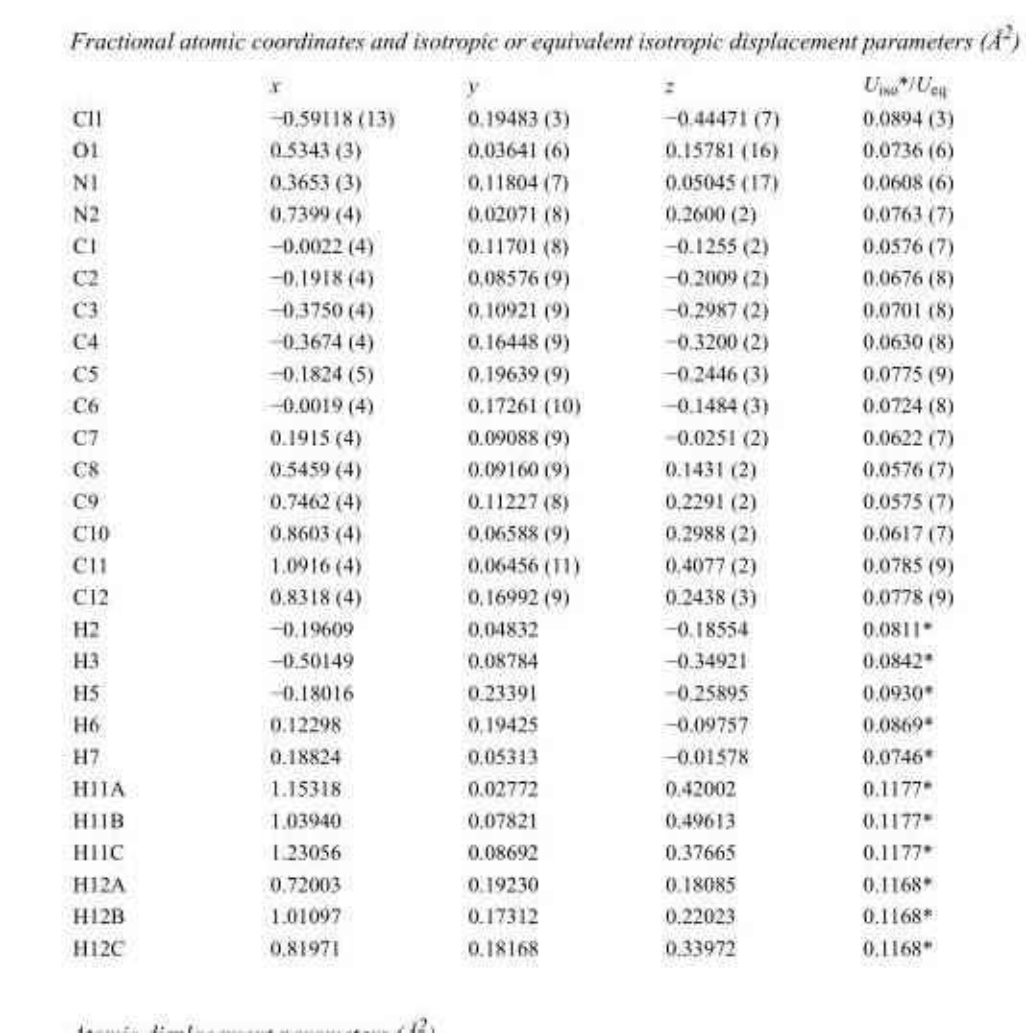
<table><thead><tr><td></td><td>x</td><td>y</td><td>z</td><td>U<sub>iso</sub>*/U<sub>eq</sub></td></tr></thead><tbody><tr><td>Cl1</td><td>−0.59118 (13)</td><td>0.19483 (3)</td><td>−0.44471 (7)</td><td>0.0894 (3)</td></tr><tr><td>O1</td><td>0.5343 (3)</td><td>0.03641 (6)</td><td>0.15781 (16)</td><td>0.0736 (6)</td></tr><tr><td>N1</td><td>0.3653 (3)</td><td>0.11804 (7)</td><td>0.05045 (17)</td><td>0.0608 (6)</td></tr><tr><td>N2</td><td>0.7399 (4)</td><td>0.02071 (8)</td><td>0.2600 (2)</td><td>0.0763 (7)</td></tr><tr><td>C1</td><td>−0.0022 (4)</td><td>0.11701 (8)</td><td>−0.1255 (2)</td><td>0.0576 (7)</td></tr><tr><td>C2</td><td>−0.1918 (4)</td><td>0.08576 (9)</td><td>−0.2009 (2)</td><td>0.0676 (8)</td></tr><tr><td>C3</td><td>−0.3750 (4)</td><td>0.10921 (9)</td><td>−0.2987 (2)</td><td>0.0701 (8)</td></tr><tr><td>C4</td><td>−0.3674 (4)</td><td>0.16448 (9)</td><td>−0.3200 (2)</td><td>0.0630 (8)</td></tr><tr><td>C5</td><td>−0.1824 (5)</td><td>0.19639 (9)</td><td>−0.2446 (3)</td><td>0.0775 (9)</td></tr><tr><td>C6</td><td>−0.0019 (4)</td><td>0.17261 (10)</td><td>−0.1484 (3)</td><td>0.0724 (8)</td></tr><tr><td>C7</td><td>0.1915 (4)</td><td>0.09088 (9)</td><td>−0.0251 (2)</td><td>0.0622 (7)</td></tr><tr><td>C8</td><td>0.5459 (4)</td><td>0.09160 (9)</td><td>0.1431 (2)</td><td>0.0576 (7)</td></tr><tr><td>C9</td><td>0.7462 (4)</td><td>0.11227 (8)</td><td>0.2291 (2)</td><td>0.0575 (7)</td></tr><tr><td>C10</td><td>0.8603 (4)</td><td>0.06588 (9)</td><td>0.2988 (2)</td><td>0.0617 (7)</td></tr><tr><td>C11</td><td>1.0916 (4)</td><td>0.06456 (11)</td><td>0.4077 (2)</td><td>0.0785 (9)</td></tr><tr><td>C12</td><td>0.8318 (4)</td><td>0.16992 (9)</td><td>0.2438 (3)</td><td>0.0778 (9)</td></tr><tr><td>H2</td><td>−0.19609</td><td>0.04832</td><td>−0.18554</td><td>0.0811*</td></tr><tr><td>H3</td><td>−0.50149</td><td>0.08784</td><td>−0.34921</td><td>0.0842*</td></tr><tr><td>H5</td><td>−0.18016</td><td>0.23391</td><td>−0.25895</td><td>0.0930*</td></tr><tr><td>H6</td><td>0.12298</td><td>0.19425</td><td>−0.09757</td><td>0.0869*</td></tr><tr><td>H7</td><td>0.18824</td><td>0.05313</td><td>−0.01578</td><td>0.0746*</td></tr><tr><td>H11A</td><td>1.15318</td><td>0.02772</td><td>0.42002</td><td>0.1177*</td></tr><tr><td>H11B</td><td>1.03940</td><td>0.07821</td><td>0.49613</td><td>0.1177*</td></tr><tr><td>H11C</td><td>1.23056</td><td>0.08692</td><td>0.37665</td><td>0.1177*</td></tr><tr><td>H12A</td><td>0.72003</td><td>0.19230</td><td>0.18085</td><td>0.1168*</td></tr><tr><td>H12B</td><td>1.01097</td><td>0.17312</td><td>0.22023</td><td>0.1168*</td></tr><tr><td>H12C</td><td>0.81971</td><td>0.18168</td><td>0.33972</td><td>0.1168*</td></tr></tbody></table>